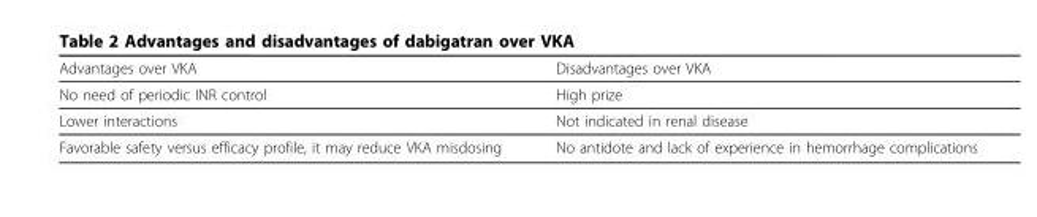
<table><thead><tr><td>Advantages over VKA</td><td>Disadvantages over VKA</td></tr></thead><tbody><tr><td>No need of periodic INR control</td><td>High prize</td></tr><tr><td>Lower interactions</td><td>Not indicated in renal disease</td></tr><tr><td>Favorable safety versus efficacy profile, it may reduce VKA misdosing</td><td>No antidote and lack of experience in hemorrhage complications</td></tr></tbody></table>